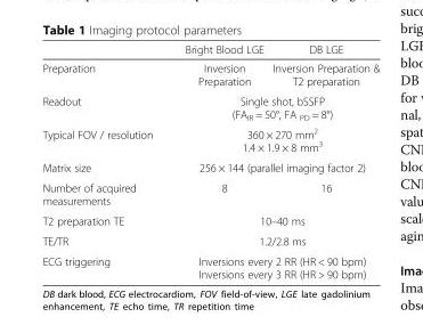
<table><thead><tr><td></td><td>Bright Blood LGE</td><td>DB LGE</td></tr></thead><tbody><tr><td>Preparation</td><td>Inversion Preparation</td><td>Inversion Preparation &amp; T2 preparation</td></tr><tr><td>Readout</td><td colspan="2">Single shot, bSSFP (FA<sub>IR</sub> = 50°, FA <sub>PD</sub> = 8°)</td></tr><tr><td>Typical FOV / resolution</td><td colspan="2">360 × 270 mm<sup>2</sup> 1.4 × 1.9 × 8 mm<sup>3</sup></td></tr><tr><td>Matrix size</td><td colspan="2">256 × 144 (parallel imaging factor 2)</td></tr><tr><td>Number of acquired measurements</td><td>8</td><td>16</td></tr><tr><td>T2 preparation TE</td><td colspan="2">10–40 ms</td></tr><tr><td>TE/TR</td><td colspan="2">1.2/2.8 ms</td></tr><tr><td>ECG triggering</td><td colspan="2">Inversions every 2 RR (HR &lt; 90 bpm) Inversions every 3 RR (HR &gt; 90 bpm)</td></tr></tbody></table>